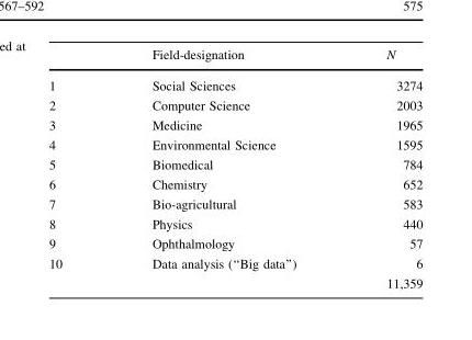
<table><thead><tr><td></td><td>Field-designation</td><td>N</td></tr></thead><tbody><tr><td>1</td><td>Social Sciences</td><td>3274</td></tr><tr><td>2</td><td>Computer Science</td><td>2003</td></tr><tr><td>3</td><td>Medicine</td><td>1965</td></tr><tr><td>4</td><td>Environmental Science</td><td>1595</td></tr><tr><td>5</td><td>Biomedical</td><td>784</td></tr><tr><td>6</td><td>Chemistry</td><td>652</td></tr><tr><td>7</td><td>Bio-agricultural</td><td>583</td></tr><tr><td>8</td><td>Physics</td><td>440</td></tr><tr><td>9</td><td>Ophthalmology</td><td>57</td></tr><tr><td rowspan="2">10</td><td>Data analysis (‘‘Big data’’)</td><td>6</td></tr><tr><td></td><td>11,359</td></tr></tbody></table>